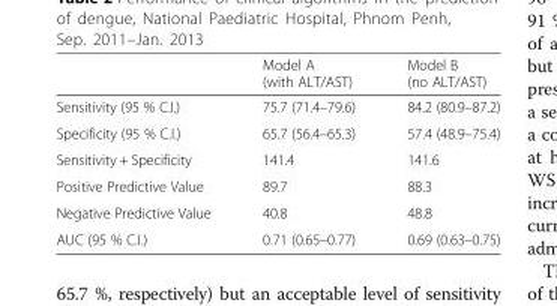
<table><thead><tr><td></td><td>Model A (with ALT/AST)</td><td>Model B (no ALT/AST)</td></tr></thead><tbody><tr><td>Sensitivity (95 % C.I.)</td><td>75.7 (71.4–79.6)</td><td>84.2 (80.9–87.2)</td></tr><tr><td>Specificity (95 % C.I.)</td><td>65.7 (56.4–65.3)</td><td>57.4 (48.9–75.4)</td></tr><tr><td>Sensitivity + Specificity</td><td>141.4</td><td>141.6</td></tr><tr><td>Positive Predictive Value</td><td>89.7</td><td>88.3</td></tr><tr><td>Negative Predictive Value</td><td>40.8</td><td>48.8</td></tr><tr><td>AUC (95 % C.I.)</td><td>0.71 (0.65–0.77)</td><td>0.69 (0.63–0.75)</td></tr></tbody></table>